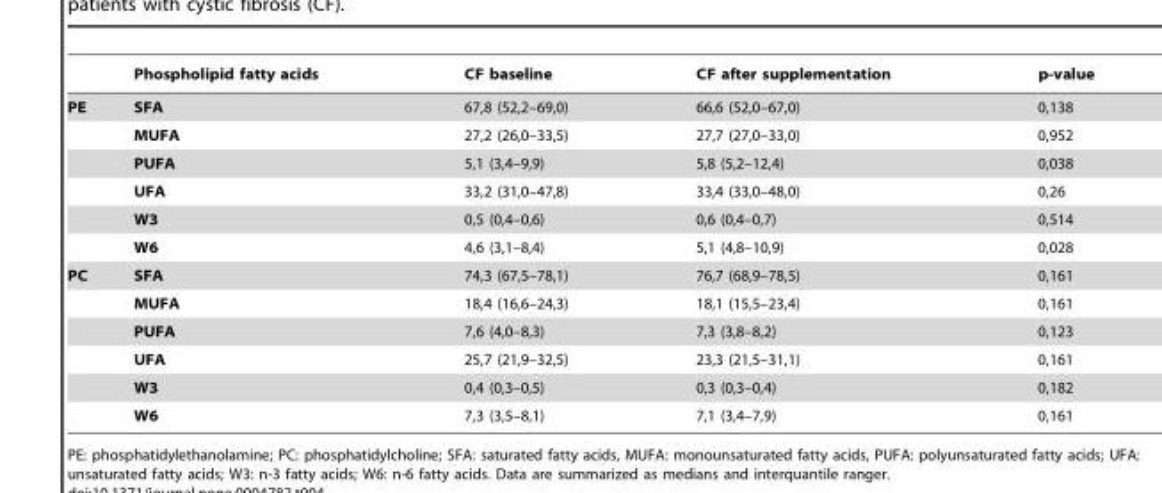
<table><thead><tr><td></td><td>Phospholipid fatty acids</td><td>CF baseline</td><td>CF after supplementation</td><td>p-value</td></tr></thead><tbody><tr><td rowspan="6">PE</td><td>SFA</td><td>67,8 (52,2–69,0)</td><td>66,6 (52,0–67,0)</td><td>0,138</td></tr><tr><td>MUFA</td><td>27,2 (26,0–33,5)</td><td>27,7 (27,0–33,0)</td><td>0,952</td></tr><tr><td>PUFA</td><td>5,1 (3,4–9,9)</td><td>5,8 (5,2–12,4)</td><td>0,038</td></tr><tr><td>UFA</td><td>33,2 (31,0–47,8)</td><td>33,4 (33,0–48,0)</td><td>0,26</td></tr><tr><td>W3</td><td>0,5 (0,4–0,6)</td><td>0,6 (0,4–0,7)</td><td>0,514</td></tr><tr><td>W6</td><td>4,6 (3,1–8,4)</td><td>5,1 (4,8–10,9)</td><td>0,028</td></tr><tr><td rowspan="6">PC</td><td>SFA</td><td>74,3 (67,5–78,1)</td><td>76,7 (68,9–78,5)</td><td>0,161</td></tr><tr><td>MUFA</td><td>18,4 (16,6–24,3)</td><td>18,1 (15,5–23,4)</td><td>0,161</td></tr><tr><td>PUFA</td><td>7,6 (4,0–8,3)</td><td>7,3 (3,8–8,2)</td><td>0,123</td></tr><tr><td>UFA</td><td>25,7 (21,9–32,5)</td><td>23,3 (21,5–31,1)</td><td>0,161</td></tr><tr><td>W3</td><td>0,4 (0,3–0,5)</td><td>0,3 (0,3–0,4)</td><td>0,182</td></tr><tr><td>W6</td><td>7,3 (3,5–8,1)</td><td>7,1 (3,4–7,9)</td><td>0,161</td></tr></tbody></table>